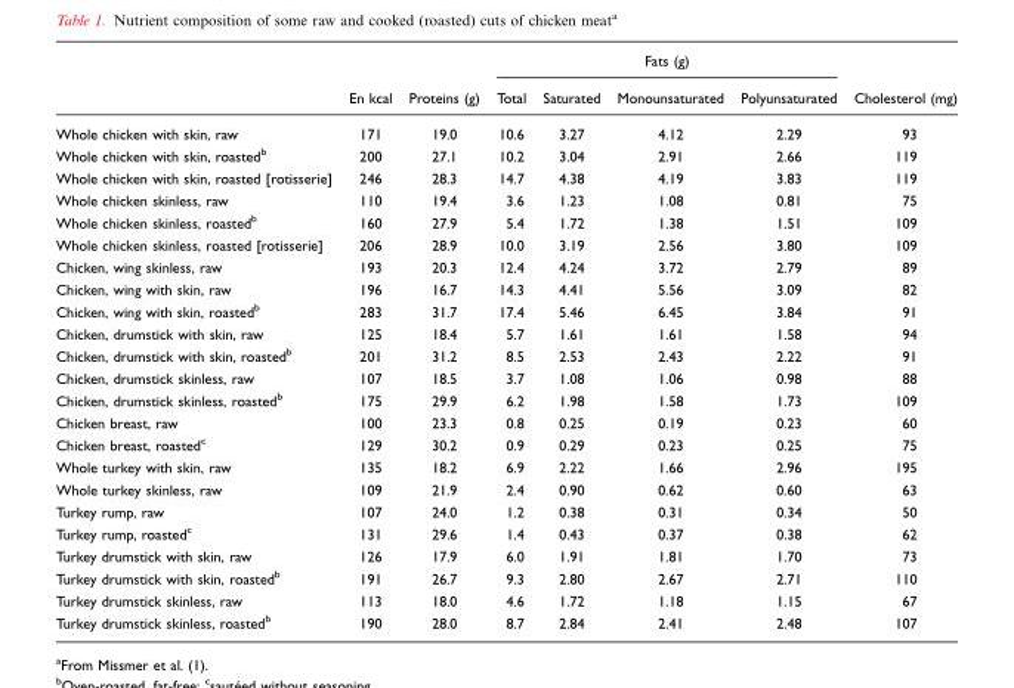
<table><thead><tr><td rowspan="2"></td><td rowspan="2">En kcal</td><td rowspan="2">Proteins (g)</td><td colspan="4">Fats (g)</td><td rowspan="2">Cholesterol (mg)</td></tr><tr><td>Total</td><td>Saturated</td><td>Monounsaturated</td><td>Polyunsaturated</td></tr></thead><tbody><tr><td>Whole chicken with skin, raw</td><td>171</td><td>19.0</td><td>10.6</td><td>3.27</td><td>4.12</td><td>2.29</td><td>93</td></tr><tr><td>Whole chicken with skin, roasted<sup>b</sup></td><td>200</td><td>27.1</td><td>10.2</td><td>3.04</td><td>2.91</td><td>2.66</td><td>119</td></tr><tr><td>Whole chicken with skin, roasted [rotisserie]</td><td>246</td><td>28.3</td><td>14.7</td><td>4.38</td><td>4.19</td><td>3.83</td><td>119</td></tr><tr><td>Whole chicken skinless, raw</td><td>110</td><td>19.4</td><td>3.6</td><td>1.23</td><td>1.08</td><td>0.81</td><td>75</td></tr><tr><td>Whole chicken skinless, roasted<sup>b</sup></td><td>160</td><td>27.9</td><td>5.4</td><td>1.72</td><td>1.38</td><td>1.51</td><td>109</td></tr><tr><td>Whole chicken skinless, roasted [rotisserie]</td><td>206</td><td>28.9</td><td>10.0</td><td>3.19</td><td>2.56</td><td>3.80</td><td>109</td></tr><tr><td>Chicken, wing skinless, raw</td><td>193</td><td>20.3</td><td>12.4</td><td>4.24</td><td>3.72</td><td>2.79</td><td>89</td></tr><tr><td>Chicken, wing with skin, raw</td><td>196</td><td>16.7</td><td>14.3</td><td>4.41</td><td>5.56</td><td>3.09</td><td>82</td></tr><tr><td>Chicken, wing with skin, roasted<sup>b</sup></td><td>283</td><td>31.7</td><td>17.4</td><td>5.46</td><td>6.45</td><td>3.84</td><td>91</td></tr><tr><td>Chicken, drumstick with skin, raw</td><td>125</td><td>18.4</td><td>5.7</td><td>1.61</td><td>1.61</td><td>1.58</td><td>94</td></tr><tr><td>Chicken, drumstick with skin, roasted<sup>b</sup></td><td>201</td><td>31.2</td><td>8.5</td><td>2.53</td><td>2.43</td><td>2.22</td><td>91</td></tr><tr><td>Chicken, drumstick skinless, raw</td><td>107</td><td>18.5</td><td>3.7</td><td>1.08</td><td>1.06</td><td>0.98</td><td>88</td></tr><tr><td>Chicken, drumstick skinless, roasted<sup>b</sup></td><td>175</td><td>29.9</td><td>6.2</td><td>1.98</td><td>1.58</td><td>1.73</td><td>109</td></tr><tr><td>Chicken breast, raw</td><td>100</td><td>23.3</td><td>0.8</td><td>0.25</td><td>0.19</td><td>0.23</td><td>60</td></tr><tr><td>Chicken breast, roasted<sup>c</sup></td><td>129</td><td>30.2</td><td>0.9</td><td>0.29</td><td>0.23</td><td>0.25</td><td>75</td></tr><tr><td>Whole turkey with skin, raw</td><td>135</td><td>18.2</td><td>6.9</td><td>2.22</td><td>1.66</td><td>2.96</td><td>195</td></tr><tr><td>Whole turkey skinless, raw</td><td>109</td><td>21.9</td><td>2.4</td><td>0.90</td><td>0.62</td><td>0.60</td><td>63</td></tr><tr><td>Turkey rump, raw</td><td>107</td><td>24.0</td><td>1.2</td><td>0.38</td><td>0.31</td><td>0.34</td><td>50</td></tr><tr><td>Turkey rump, roasted<sup>c</sup></td><td>131</td><td>29.6</td><td>1.4</td><td>0.43</td><td>0.37</td><td>0.38</td><td>62</td></tr><tr><td>Turkey drumstick with skin, raw</td><td>126</td><td>17.9</td><td>6.0</td><td>1.91</td><td>1.81</td><td>1.70</td><td>73</td></tr><tr><td>Turkey drumstick with skin, roasted<sup>b</sup></td><td>191</td><td>26.7</td><td>9.3</td><td>2.80</td><td>2.67</td><td>2.71</td><td>110</td></tr><tr><td>Turkey drumstick skinless, raw</td><td>113</td><td>18.0</td><td>4.6</td><td>1.72</td><td>1.18</td><td>1.15</td><td>67</td></tr><tr><td>Turkey drumstick skinless, roasted<sup>b</sup></td><td>190</td><td>28.0</td><td>8.7</td><td>2.84</td><td>2.41</td><td>2.48</td><td>107</td></tr></tbody></table>